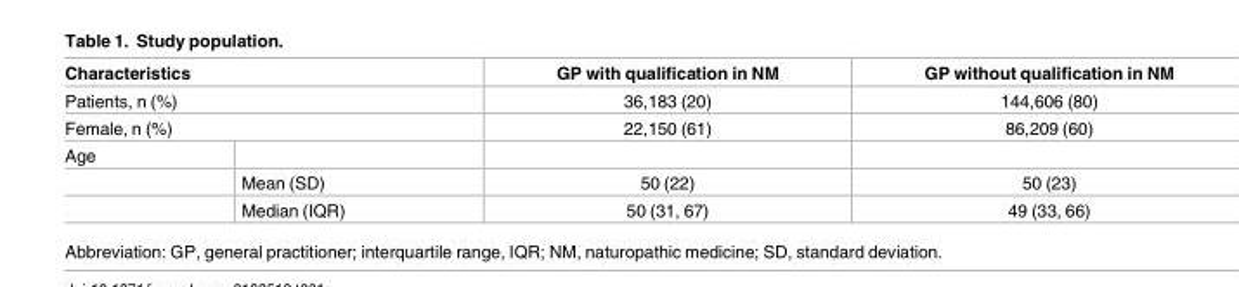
<table><thead><tr><td rowspan="3" colspan="2">Characteristics Patients, n (%) Female, n (%)</td><td rowspan="4">GP with qualification in NM 36,183 (20) 22,150 (61)</td><td rowspan="4">GP without qualification in NM 144,606 (80) 86,209 (60)</td></tr><tr></tr><tr></tr><tr><td>Age</td><td></td></tr></thead><tbody><tr><td></td><td>Mean (SD)</td><td>50 (22)</td><td>50 (23)</td></tr><tr><td></td><td>Median (IQR)</td><td>50 (31, 67)</td><td>49 (33, 66)</td></tr></tbody></table>